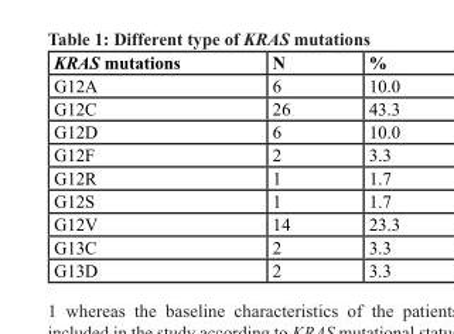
<table><thead><tr><td>KRAS mutations</td><td>N</td><td>%</td></tr></thead><tbody><tr><td>G12A</td><td>6</td><td>10.0</td></tr><tr><td>G12C</td><td>26</td><td>43.3</td></tr><tr><td>G12D</td><td>6</td><td>10.0</td></tr><tr><td>G12F</td><td>2</td><td>3.3</td></tr><tr><td>G12R</td><td>1</td><td>1.7</td></tr><tr><td>G12S</td><td>1</td><td>1.7</td></tr><tr><td>G12V</td><td>14</td><td>23.3</td></tr><tr><td>G13C</td><td>2</td><td>3.3</td></tr><tr><td>G13D</td><td>2</td><td>3.3</td></tr></tbody></table>